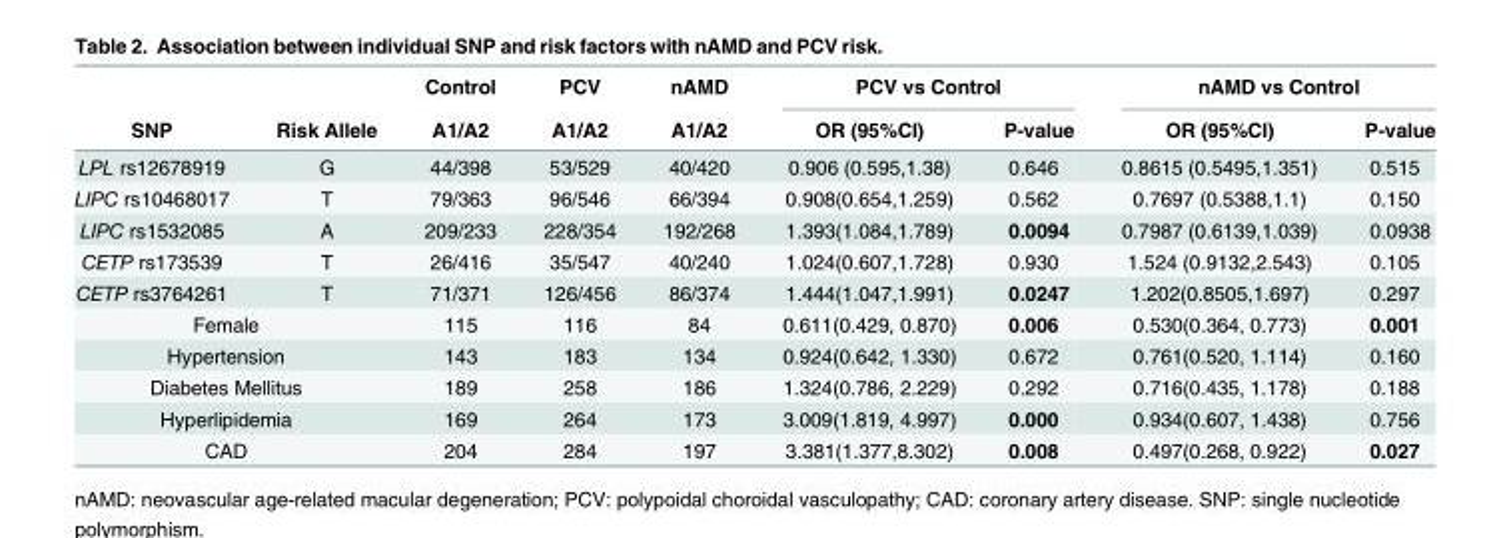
<table><thead><tr><td rowspan="2">SNP</td><td rowspan="2">Risk Allele</td><td rowspan="2">Control A1/A2</td><td rowspan="2">PCV A1/A2</td><td rowspan="2">nAMD A1/A2</td><td colspan="2">PCV vs Control</td><td colspan="2">nAMD vs Control</td></tr><tr><td>OR (95%CI)</td><td>P-value</td><td>OR (95%CI)</td><td>P-value</td></tr></thead><tbody><tr><td>LPL rs12678919</td><td>G</td><td>44/398</td><td>53/529</td><td>40/420</td><td>0.906 (0.595,1.38)</td><td>0.646</td><td>0.8615 (0.5495,1.351)</td><td>0.515</td></tr><tr><td>LIPC rs10468017</td><td>T</td><td>79/363</td><td>96/546</td><td>66/394</td><td>0.908(0.654,1.259)</td><td>0.562</td><td>0.7697 (0.5388,1.1)</td><td>0.150</td></tr><tr><td>LIPC rs1532085</td><td>A</td><td>209/233</td><td>228/354</td><td>192/268</td><td>1.393(1.084,1.789)</td><td>0.0094</td><td>0.7987 (0.6139,1.039)</td><td>0.0938</td></tr><tr><td>CETP rs173539</td><td>T</td><td>26/416</td><td>35/547</td><td>40/240</td><td>1.024(0.607,1.728)</td><td>0.930</td><td>1.524 (0.9132,2.543)</td><td>0.105</td></tr><tr><td>CETP rs3764261</td><td>T</td><td>71/371</td><td>126/456</td><td>86/374</td><td>1.444(1.047,1.991)</td><td>0.0247</td><td>1.202(0.8505,1.697)</td><td>0.297</td></tr><tr><td colspan="2">Female</td><td>115</td><td>116</td><td>84</td><td>0.611(0.429, 0.870)</td><td>0.006</td><td>0.530(0.364, 0.773)</td><td>0.001</td></tr><tr><td colspan="2">Hypertension</td><td>143</td><td>183</td><td>134</td><td>0.924(0.642, 1.330)</td><td>0.672</td><td>0.761(0.520, 1.114)</td><td>0.160</td></tr><tr><td colspan="2">Diabetes Mellitus</td><td>189</td><td>258</td><td>186</td><td>1.324(0.786, 2.229)</td><td>0.292</td><td>0.716(0.435, 1.178)</td><td>0.188</td></tr><tr><td colspan="2">Hyperlipidemia</td><td>169</td><td>264</td><td>173</td><td>3.009(1.819, 4.997)</td><td>0.000</td><td>0.934(0.607, 1.438)</td><td>0.756</td></tr><tr><td colspan="2">CAD</td><td>204</td><td>284</td><td>197</td><td>3.381(1.377,8.302)</td><td>0.008</td><td>0.497(0.268, 0.922)</td><td>0.027</td></tr></tbody></table>